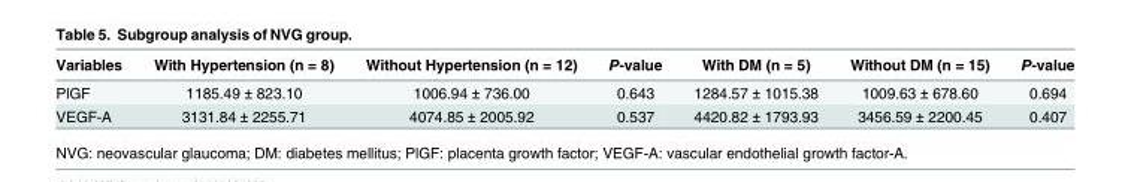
<table><thead><tr><td>Variables</td><td>With Hypertension (n = 8)</td><td>Without Hypertension (n = 12)</td><td>P-value</td><td>With DM (n = 5)</td><td>Without DM (n = 15)</td><td>P-value</td></tr></thead><tbody><tr><td>PlGF</td><td>1185.49 ± 823.10</td><td>1006.94 ± 736.00</td><td>0.643</td><td>1284.57 ± 1015.38</td><td>1009.63 ± 678.60</td><td>0.694</td></tr><tr><td>VEGF-A</td><td>3131.84 ± 2255.71</td><td>4074.85 ± 2005.92</td><td>0.537</td><td>4420.82 ± 1793.93</td><td>3456.59 ± 2200.45</td><td>0.407</td></tr></tbody></table>